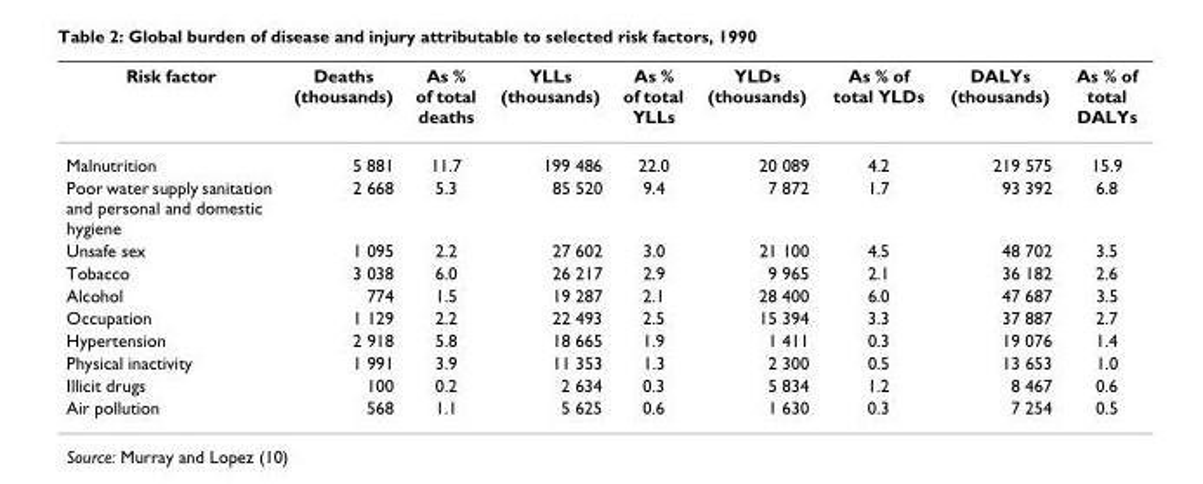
<table><thead><tr><td>Risk factor</td><td>Deaths (thousands)</td><td>As % of total deaths</td><td>YLLs (thousands)</td><td>As % of total YLLs</td><td>YLDs (thousands)</td><td>As % of total YLDs</td><td>DALYs (thousands)</td><td>As % of total DALYs</td></tr></thead><tbody><tr><td>Malnutrition</td><td>5 881</td><td>11.7</td><td>199 486</td><td>22.0</td><td>20 089</td><td>4.2</td><td>219 575</td><td>15.9</td></tr><tr><td>Poor water supply sanitation and personal and domestic hygiene</td><td>2 668</td><td>5.3</td><td>85 520</td><td>9.4</td><td>7 872</td><td>1.7</td><td>93 392</td><td>6.8</td></tr><tr><td>Unsafe sex</td><td>1 095</td><td>2.2</td><td>27 602</td><td>3.0</td><td>21 100</td><td>4.5</td><td>48 702</td><td>3.5</td></tr><tr><td>Tobacco</td><td>3 038</td><td>6.0</td><td>26 217</td><td>2.9</td><td>9 965</td><td>2.1</td><td>36 182</td><td>2.6</td></tr><tr><td>Alcohol</td><td>774</td><td>1.5</td><td>19 287</td><td>2.1</td><td>28 400</td><td>6.0</td><td>47 687</td><td>3.5</td></tr><tr><td>Occupation</td><td>1 129</td><td>2.2</td><td>22 493</td><td>2.5</td><td>15 394</td><td>3.3</td><td>37 887</td><td>2.7</td></tr><tr><td>Hypertension</td><td>2 918</td><td>5.8</td><td>18 665</td><td>1.9</td><td>1 411</td><td>0.3</td><td>19 076</td><td>1.4</td></tr><tr><td>Physical inactivity</td><td>1 991</td><td>3.9</td><td>11 353</td><td>1.3</td><td>2 300</td><td>0.5</td><td>13 653</td><td>1.0</td></tr><tr><td>Illicit drugs</td><td>100</td><td>0.2</td><td>2 634</td><td>0.3</td><td>5 834</td><td>1.2</td><td>8 467</td><td>0.6</td></tr><tr><td>Air pollution</td><td>568</td><td>1.1</td><td>5 625</td><td>0.6</td><td>1 630</td><td>0.3</td><td>7 254</td><td>0.5</td></tr></tbody></table>